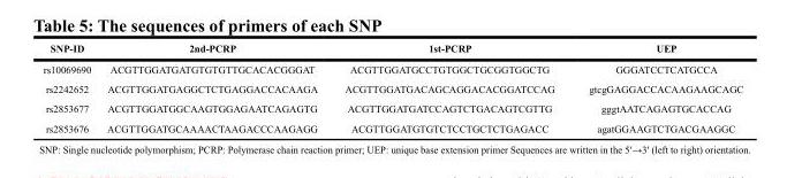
<table><thead><tr><td>SNP-ID</td><td>2nd-PCRP</td><td>1st-PCRP</td><td>UEP</td></tr></thead><tbody><tr><td>rs10069690</td><td>ACGTTGGATGATGTGTGTTGCACACGGGAT</td><td>ACGTTGGATGCCTGTGGCTGCGGTGGCTG</td><td>GGGATCCTCATGCCA</td></tr><tr><td>rs2242652</td><td>ACGTTGGATGAGGCTCTGAGGACCACAAGA</td><td>ACGTTGGATGACAGCAGGACACGGATCCAG</td><td>gtcgGAGGACCACAAGAAGCAGC</td></tr><tr><td>rs2853677</td><td>ACGTTGGATGGCAAGTGGAGAATCAGAGTG</td><td>ACGTTGGATGATCCAGTCTGACAGTCGTTG</td><td>gggtAATCAGAGTGCACCAG</td></tr><tr><td>rs2853676</td><td>ACGTTGGATGCAAAACTAAGACCCAAGAGG</td><td>ACGTTGGATGTGTCTCCTGCTCTGAGACC</td><td>agatGGAAGTCTGACGAAGGC</td></tr></tbody></table>